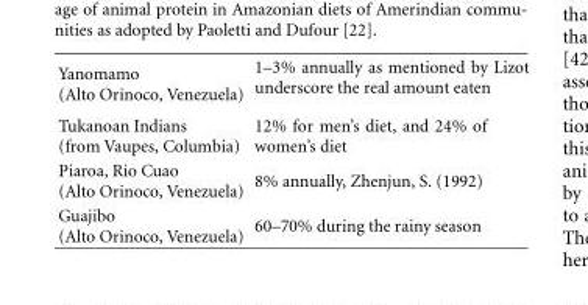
<table><tbody><tr><td>Yanomamo (Alto Orinoco, Venezuela)</td><td>1–3% annually as mentioned by Lizot underscore the real amount eaten</td></tr><tr><td>Tukanoan Indians (from Vaupes, Columbia)</td><td>12% for men’s diet, and 24% of women’s diet</td></tr><tr><td>Piaroa, Rio Cuao (Alto Orinoco, Venezuela)</td><td>8% annually, Zhenjun, S. (1992)</td></tr><tr><td>Guajibo (Alto Orinoco, Venezuela)</td><td>60–70% during the rainy season</td></tr></tbody></table>